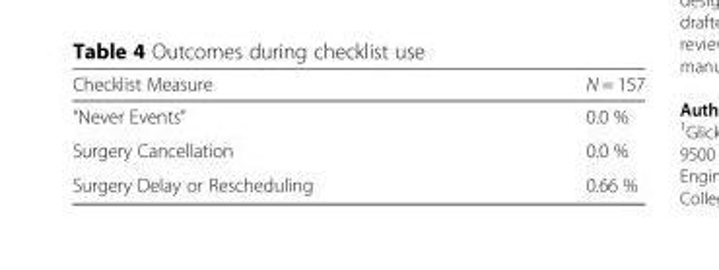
<table><thead><tr><td>Checklist Measure</td><td>N = 157</td></tr></thead><tbody><tr><td>“Never Events”</td><td>0.0 %</td></tr><tr><td>Surgery Cancellation</td><td>0.0 %</td></tr><tr><td>Surgery Delay or Rescheduling</td><td>0.66 %</td></tr></tbody></table>